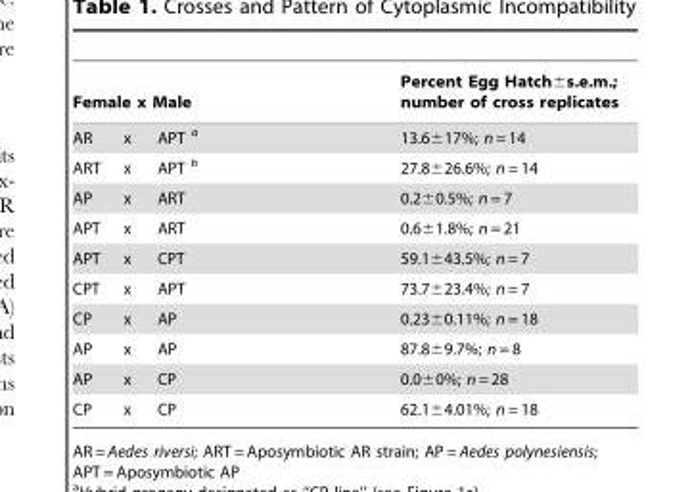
<table><thead><tr><td colspan="3">Female x Male</td><td rowspan="2">Percent Egg Hatch±s.e.m.; number of cross replicates 13.6±17%; n = 14</td></tr><tr><td>AR</td><td>x</td><td>APT a</td></tr></thead><tbody><tr><td>ART</td><td>x</td><td>APT b</td><td>27.8±26.6%; n = 14</td></tr><tr><td>AP</td><td>x</td><td>ART</td><td>0.2±0.5%; n = 7</td></tr><tr><td>APT</td><td>x</td><td>ART</td><td>0.6±1.8%; n = 21</td></tr><tr><td>APT</td><td>x</td><td>CPT</td><td>59.1±43.5%; n = 7</td></tr><tr><td>CPT</td><td>x</td><td>APT</td><td>73.7±23.4%; n = 7</td></tr><tr><td>CP</td><td>x</td><td>AP</td><td>0.23±0.11%; n = 18</td></tr><tr><td>AP</td><td>x</td><td>AP</td><td>87.8±9.7%; n = 8</td></tr><tr><td>AP</td><td>x</td><td>CP</td><td>0.0±0%; n = 28</td></tr><tr><td>CP</td><td>x</td><td>CP</td><td>62.1±4.01%; n = 18</td></tr></tbody></table>